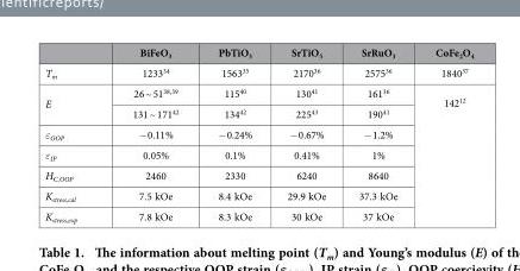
<table><thead><tr><td></td><td>BiFeO<sub>3</sub></td><td>PbTiO<sub>3</sub></td><td>SrTiO<sub>3</sub></td><td>SrRuO<sub>3</sub></td><td>CoFe<sub>2</sub>O<sub>4</sub></td></tr></thead><tbody><tr><td>T<sub>m</sub></td><td>1233<sup>34</sup></td><td>1563<sup>35</sup></td><td>2170<sup>36</sup></td><td>2575<sup>36</sup></td><td>1840<sup>37</sup></td></tr><tr><td rowspan="2">E</td><td>26 ~ 51<sup>38</sup>,<sup>39</sup></td><td>115<sup>40</sup></td><td>130<sup>41</sup></td><td>161<sup>36</sup></td><td rowspan="7">142<sup>12</sup></td></tr><tr><td>131 ~ 171<sup>42</sup></td><td>134<sup>42</sup></td><td>225<sup>43</sup></td><td>190<sup>41</sup></td></tr><tr><td>ε<sub>OOP</sub></td><td>− 0.11%</td><td>− 0.24%</td><td>− 0.67%</td><td>− 1.2%</td></tr><tr><td>ε<sub>IP</sub></td><td>0.05%</td><td>0.1%</td><td>0.41%</td><td>1%</td></tr><tr><td>H<sub>C,OOP</sub></td><td>2460</td><td>2330</td><td>6240</td><td>8640</td></tr><tr><td>K<sub>stress,cal</sub></td><td>7.5 kOe</td><td>8.4 kOe</td><td>29.9 kOe</td><td>37.3 kOe</td></tr><tr><td>K<sub>stress,exp</sub></td><td>7.8 kOe</td><td>8.3 kOe</td><td>30 kOe</td><td>37 kOe</td></tr></tbody></table>